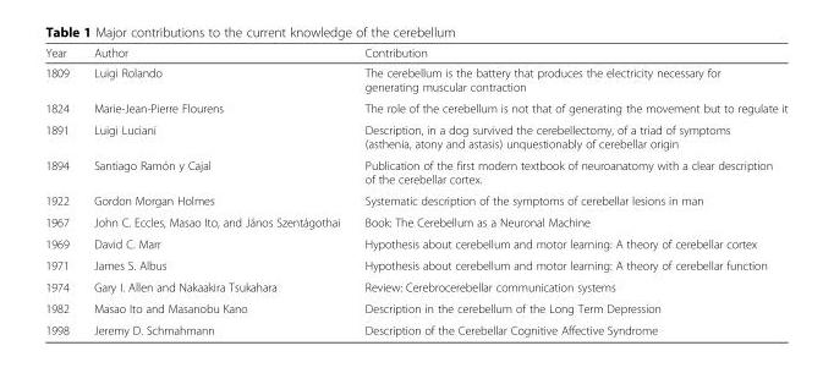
<table><thead><tr><td>Year</td><td>Author</td><td>Contribution</td></tr></thead><tbody><tr><td>1809</td><td>Luigi Rolando</td><td>The cerebellum is the battery that produces the electricity necessary for generating muscular contraction</td></tr><tr><td>1824</td><td>Marie-Jean-Pierre Flourens</td><td>The role of the cerebellum is not that of generating the movement but to regulate it</td></tr><tr><td>1891</td><td>Luigi Luciani</td><td>Description, in a dog survived the cerebellectomy, of a triad of symptoms (asthenia, atony and astasis) unquestionably of cerebellar origin</td></tr><tr><td>1894</td><td>Santiago Ramón y Cajal</td><td>Publication of the first modern textbook of neuroanatomy with a clear description of the cerebellar cortex.</td></tr><tr><td>1922</td><td>Gordon Morgan Holmes</td><td>Systematic description of the symptoms of cerebellar lesions in man</td></tr><tr><td>1967</td><td>John C. Eccles, Masao Ito, and János Szentágothai</td><td>Book: The Cerebellum as a Neuronal Machine</td></tr><tr><td>1969</td><td>David C. Marr</td><td>Hypothesis about cerebellum and motor learning: A theory of cerebellar cortex</td></tr><tr><td>1971</td><td>James S. Albus</td><td>Hypothesis about cerebellum and motor learning: A theory of cerebellar function</td></tr><tr><td>1974</td><td>Gary I. Allen and Nakaakira Tsukahara</td><td>Review: Cerebrocerebellar communication systems</td></tr><tr><td>1982</td><td>Masao Ito and Masanobu Kano</td><td>Description in the cerebellum of the Long Term Depression</td></tr><tr><td>1998</td><td>Jeremy D. Schmahmann</td><td>Description of the Cerebellar Cognitive Affective Syndrome</td></tr></tbody></table>